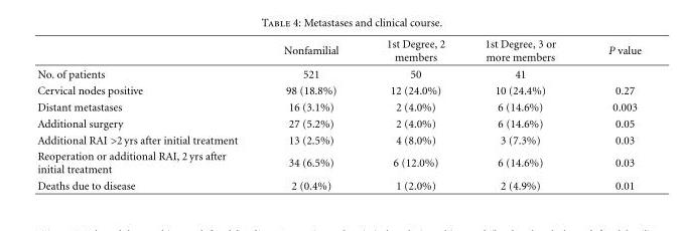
<table><thead><tr><td></td><td>Nonfamilial</td><td>1st Degree, 2 members</td><td>1st Degree, 3 or more members</td><td>P value</td></tr></thead><tbody><tr><td>No. of patients</td><td>521</td><td>50</td><td>41</td><td></td></tr><tr><td>Cervical nodes positive</td><td>98 (18.8%)</td><td>12 (24.0%)</td><td>10 (24.4%)</td><td>0.27</td></tr><tr><td>Distant metastases</td><td>16 (3.1%)</td><td>2 (4.0%)</td><td>6 (14.6%)</td><td>0.003</td></tr><tr><td>Additional surgery</td><td>27 (5.2%)</td><td>2 (4.0%)</td><td>6 (14.6%)</td><td>0.05</td></tr><tr><td>Additional RAI &gt;2 yrs after initial treatment</td><td>13 (2.5%)</td><td>4 (8.0%)</td><td>3 (7.3%)</td><td>0.03</td></tr><tr><td>Reoperation or additional RAI, 2 yrs after initial treatment</td><td>34 (6.5%)</td><td>6 (12.0%)</td><td>6 (14.6%)</td><td>0.03</td></tr><tr><td>Deaths due to disease</td><td>2 (0.4%)</td><td>1 (2.0%)</td><td>2 (4.9%)</td><td>0.01</td></tr></tbody></table>